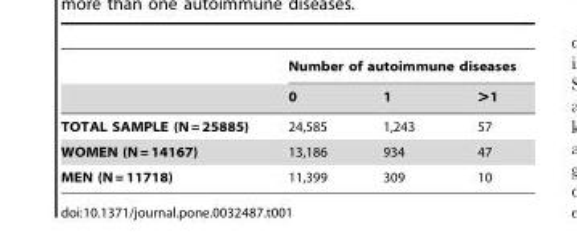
<table><thead><tr><td rowspan="2"></td><td colspan="3">Number of autoimmune diseases</td></tr><tr><td>0</td><td>1</td><td>&gt;1</td></tr></thead><tbody><tr><td>TOTAL SAMPLE (N = 25885)</td><td>24,585</td><td>1,243</td><td>57</td></tr><tr><td>WOMEN (N = 14167)</td><td>13,186</td><td>934</td><td>47</td></tr><tr><td>MEN (N = 11718)</td><td>11,399</td><td>309</td><td>10</td></tr></tbody></table>